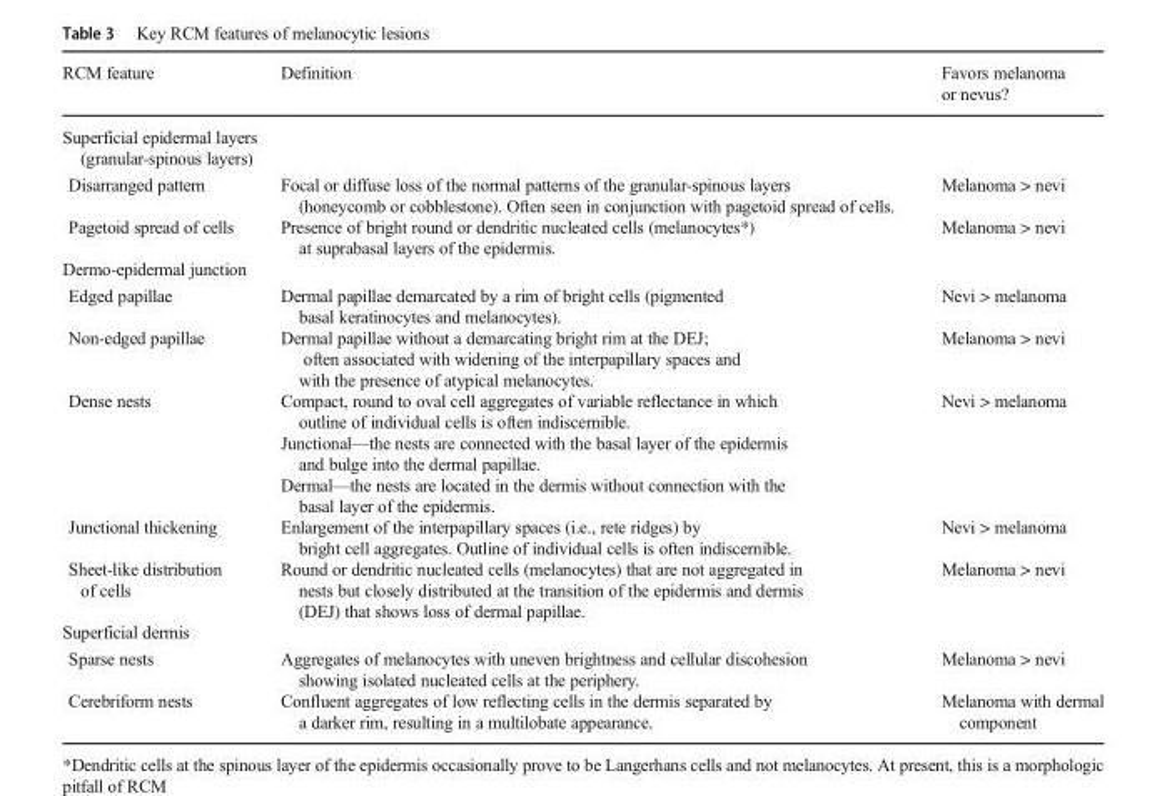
<table><thead><tr><td>RCM feature</td><td>Definition</td><td>Favors melanoma or nevus?</td></tr></thead><tbody><tr><td colspan="3">Superficial epidermal layers (granular-spinous layers)</td></tr><tr><td>Disarranged pattern</td><td>Focal or diffuse loss of the normal patterns of the granular-spinous layers (honeycomb or cobblestone). Often seen in conjunction with pagetoid spread of cells.</td><td>Melanoma &gt; nevi</td></tr><tr><td>Pagetoid spread of cells</td><td>Presence of bright round or dendritic nucleated cells (melanocytes*) at suprabasal layers of the epidermis.</td><td>Melanoma &gt; nevi</td></tr><tr><td colspan="3">Dermo-epidermal junction</td></tr><tr><td>Edged papillae</td><td>Dermal papillae demarcated by a rim of bright cells (pigmented basal keratinocytes and melanocytes).</td><td>Nevi &gt; melanoma</td></tr><tr><td>Non-edged papillae</td><td>Dermal papillae without a demarcating bright rim at the DEJ; often associated with widening of the interpapillary spaces and with the presence of atypical melanocytes.</td><td>Melanoma &gt; nevi</td></tr><tr><td>Dense nests</td><td>Compact, round to oval cell aggregates of variable reflectance in which outline of individual cells is often indiscernible. Junctional—the nests are connected with the basal layer of the epidermis and bulge into the dermal papillae. Dermal—the nests are located in the dermis without connection with the basal layer of the epidermis.</td><td>Nevi &gt; melanoma</td></tr><tr><td>Junctional thickening</td><td>Enlargement of the interpapillary spaces (i.e., rete ridges) by bright cell aggregates. Outline of individual cells is often indiscernible.</td><td>Nevi &gt; melanoma</td></tr><tr><td>Sheet-like distribution of cells</td><td>Round or dendritic nucleated cells (melanocytes) that are not aggregated in nests but closely distributed at the transition of the epidermis and dermis (DEJ) that shows loss of dermal papillae.</td><td>Melanoma &gt; nevi</td></tr><tr><td colspan="3">Superficial dermis</td></tr><tr><td>Sparse nests</td><td>Aggregates of melanocytes with uneven brightness and cellular discohesion showing isolated nucleated cells at the periphery.</td><td>Melanoma &gt; nevi</td></tr><tr><td>Cerebriform nests</td><td>Confluent aggregates of low reflecting cells in the dermis separated by a darker rim, resulting in a multilobate appearance.</td><td>Melanoma with dermal component</td></tr></tbody></table>